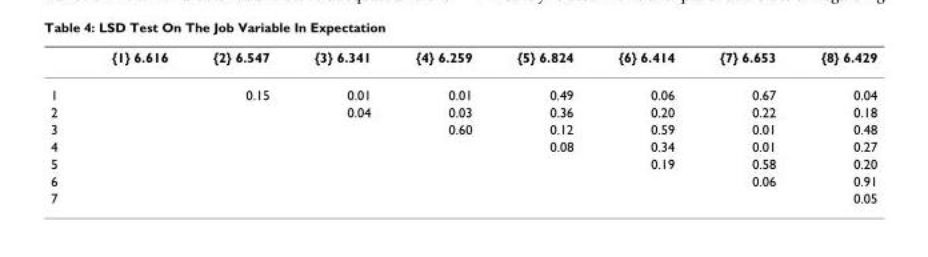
<table><thead><tr><td></td><td>{1} 6.616</td><td>{2} 6.547</td><td>{3} 6.341</td><td>{4} 6.259</td><td>{5} 6.824</td><td>{6} 6.414</td><td>{7} 6.653</td><td>{8} 6.429</td></tr></thead><tbody><tr><td>1</td><td></td><td>0.15</td><td>0.01</td><td>0.01</td><td>0.49</td><td>0.06</td><td>0.67</td><td>0.04</td></tr><tr><td>2</td><td></td><td></td><td>0.04</td><td>0.03</td><td>0.36</td><td>0.20</td><td>0.22</td><td>0.18</td></tr><tr><td>3</td><td></td><td></td><td></td><td>0.60</td><td>0.12</td><td>0.59</td><td>0.01</td><td>0.48</td></tr><tr><td>4</td><td></td><td></td><td></td><td></td><td>0.08</td><td>0.34</td><td>0.01</td><td>0.27</td></tr><tr><td>5</td><td></td><td></td><td></td><td></td><td></td><td>0.19</td><td>0.58</td><td>0.20</td></tr><tr><td>6</td><td></td><td></td><td></td><td></td><td></td><td></td><td>0.06</td><td>0.91</td></tr><tr><td>7</td><td></td><td></td><td></td><td></td><td></td><td></td><td></td><td>0.05</td></tr></tbody></table>